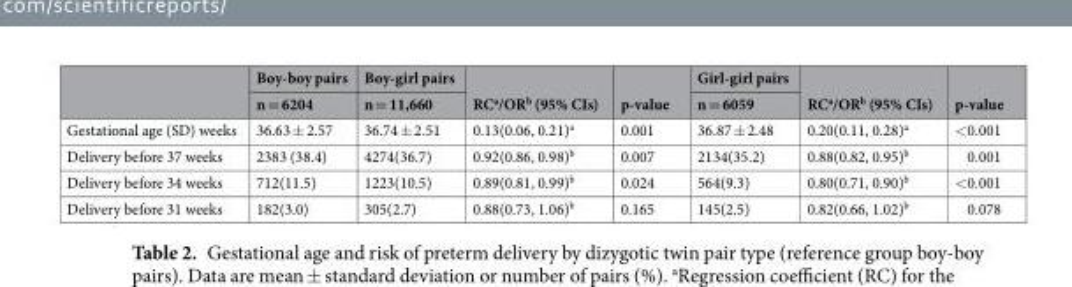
<table><thead><tr><td rowspan="2"></td><td rowspan="2">Boy-boy pairs n = 6204</td><td rowspan="2">Boy-girl pairs n = 11,660</td><td rowspan="2">RC<sup>a</sup>/OR<sup>b</sup> (95% CIs)</td><td rowspan="2">p-value</td><td rowspan="2">Girl-girl pairs n = 6059</td><td rowspan="2">RC<sup>a</sup>/OR<sup>b</sup> (95% CIs)</td><td rowspan="2">p-value</td></tr><tr></tr></thead><tbody><tr><td>Gestational age (SD) weeks</td><td>36.63 ± 2.57</td><td>36.74 ± 2.51</td><td>0.13(0.06, 0.21)<sup>a</sup></td><td>0.001</td><td>36.87 ± 2.48</td><td>0.20(0.11, 0.28)<sup>a</sup></td><td>&lt;0.001</td></tr><tr><td>Delivery before 37 weeks</td><td>2383 (38.4)</td><td>4274(36.7)</td><td>0.92(0.86, 0.98)<sup>b</sup></td><td>0.007</td><td>2134(35.2)</td><td>0.88(0.82, 0.95)<sup>b</sup></td><td>0.001</td></tr><tr><td>Delivery before 34 weeks</td><td>712(11.5)</td><td>1223(10.5)</td><td>0.89(0.81, 0.99)<sup>b</sup></td><td>0.024</td><td>564(9.3)</td><td>0.80(0.71, 0.90)<sup>b</sup></td><td>&lt;0.001</td></tr><tr><td>Delivery before 31 weeks</td><td>182(3.0)</td><td>305(2.7)</td><td>0.88(0.73, 1.06)<sup>b</sup></td><td>0.165</td><td>145(2.5)</td><td>0.82(0.66, 1.02)<sup>b</sup></td><td>0.078</td></tr></tbody></table>